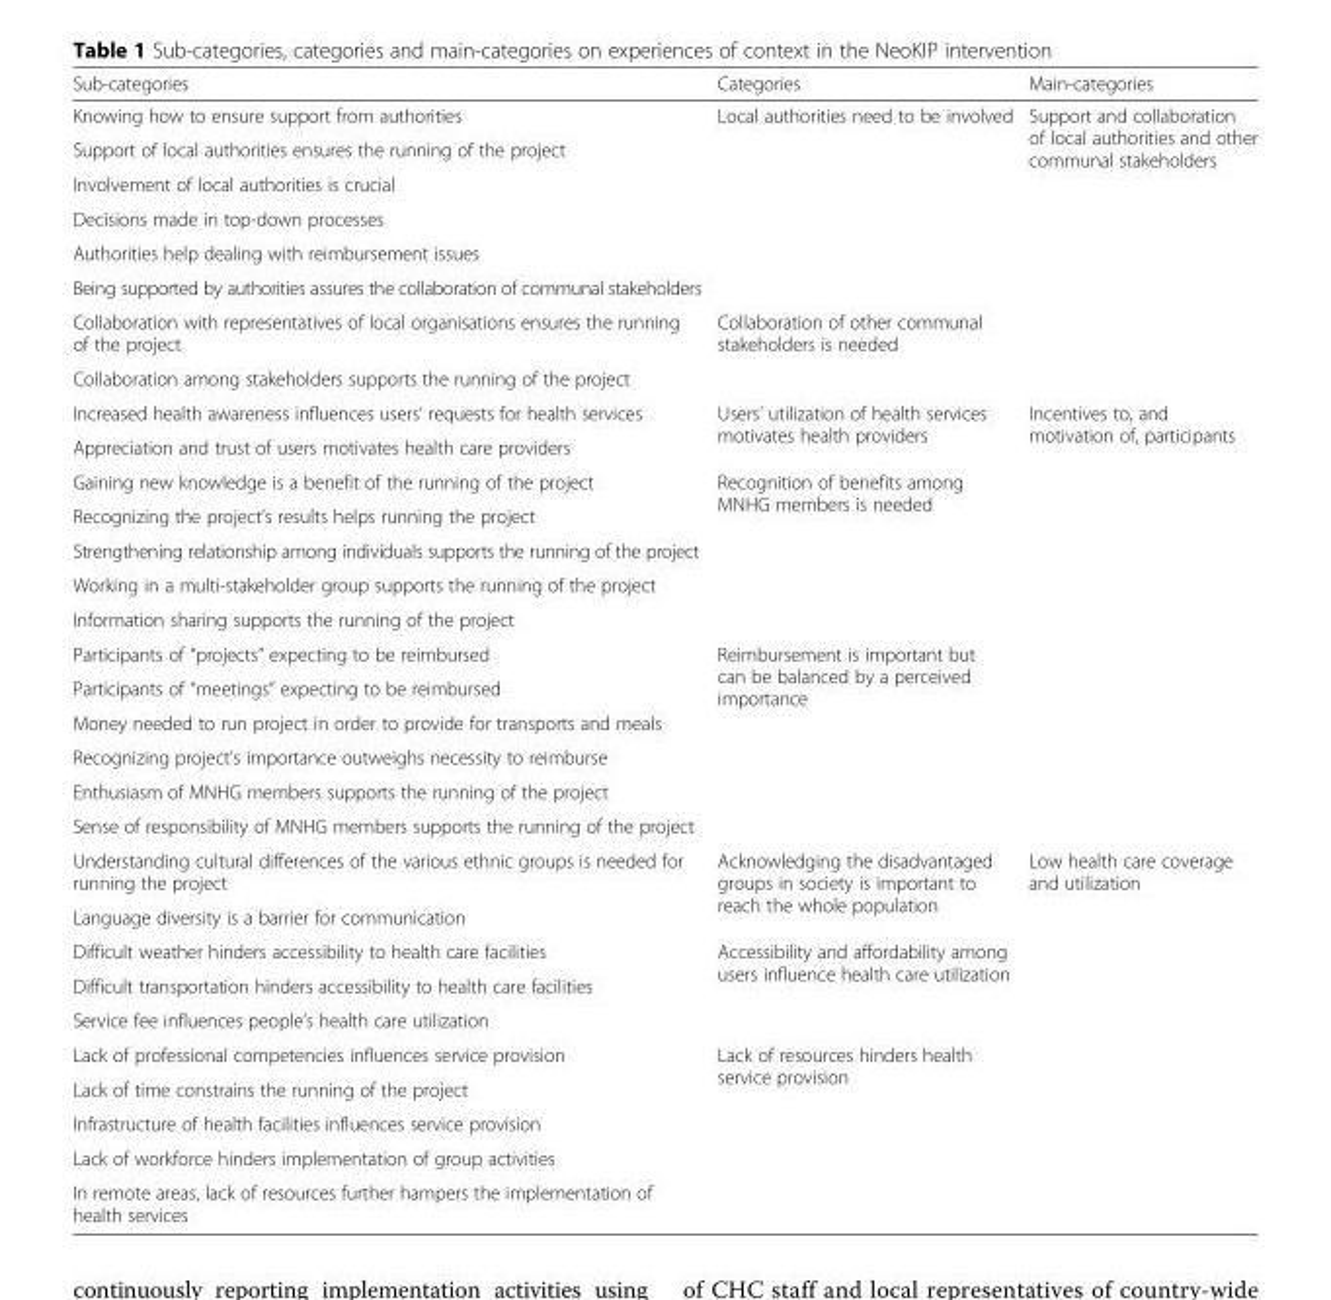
<table><thead><tr><td>Sub-categories</td><td>Categories</td><td>Main-categories</td></tr></thead><tbody><tr><td>Knowing how to ensure support from authorities</td><td rowspan="6">Local authorities need to be involved</td><td rowspan="8">Support and collaboration of local authorities and other communal stakeholders</td></tr><tr><td>Support of local authorities ensures the running of the project</td></tr><tr><td>Involvement of local authorities is crucial</td></tr><tr><td>Decisions made in top-down processes</td></tr><tr><td>Authorities help dealing with reimbursement issues</td></tr><tr><td>Being supported by authorities assures the collaboration of communal stakeholders</td></tr><tr><td>Collaboration with representatives of local organisations ensures the running of the project</td><td rowspan="2">Collaboration of other communal stakeholders is needed</td></tr><tr><td>Collaboration among stakeholders supports the running of the project</td></tr><tr><td>Increased health awareness influences users’ requests for health services</td><td rowspan="2">Users’ utilization of health services motivates health providers</td><td rowspan="13">Incentives to, and motivation of, participants</td></tr><tr><td>Appreciation and trust of users motivates health care providers</td></tr><tr><td>Gaining new knowledge is a benefit of the running of the project</td><td rowspan="5">Recognition of benefits among MNHG members is needed</td></tr><tr><td>Recognizing the project’s results helps running the project</td></tr><tr><td>Strengthening relationship among individuals supports the running of the project</td></tr><tr><td>Working in a multi-stakeholder group supports the running of the project</td></tr><tr><td>Information sharing supports the running of the project</td></tr><tr><td>Participants of “projects” expecting to be reimbursed</td><td rowspan="6">Reimbursement is important but can be balanced by a perceived importance</td></tr><tr><td>Participants of “meetings” expecting to be reimbursed</td></tr><tr><td>Money needed to run project in order to provide for transports and meals</td></tr><tr><td>Recognizing project’s importance outweighs necessity to reimburse</td></tr><tr><td>Enthusiasm of MNHG members supports the running of the project</td></tr><tr><td>Sense of responsibility of MNHG members supports the running of the project</td></tr><tr><td>Understanding cultural differences of the various ethnic groups is needed for running the project</td><td rowspan="2">Acknowledging the disadvantaged groups in society is important to reach the whole population</td><td rowspan="10">Low health care coverage and utilization</td></tr><tr><td>Language diversity is a barrier for communication</td></tr><tr><td>Difficult weather hinders accessibility to health care facilities</td><td rowspan="3">Accessibility and affordability among users influence health care utilization</td></tr><tr><td>Difficult transportation hinders accessibility to health care facilities</td></tr><tr><td>Service fee influences people’s health care utilization</td></tr><tr><td>Lack of professional competencies influences service provision</td><td rowspan="5">Lack of resources hinders health service provision</td></tr><tr><td>Lack of time constrains the running of the project</td></tr><tr><td>Infrastructure of health facilities influences service provision</td></tr><tr><td>Lack of workforce hinders implementation of group activities</td></tr><tr><td>In remote areas, lack of resources further hampers the implementation of health services</td></tr></tbody></table>